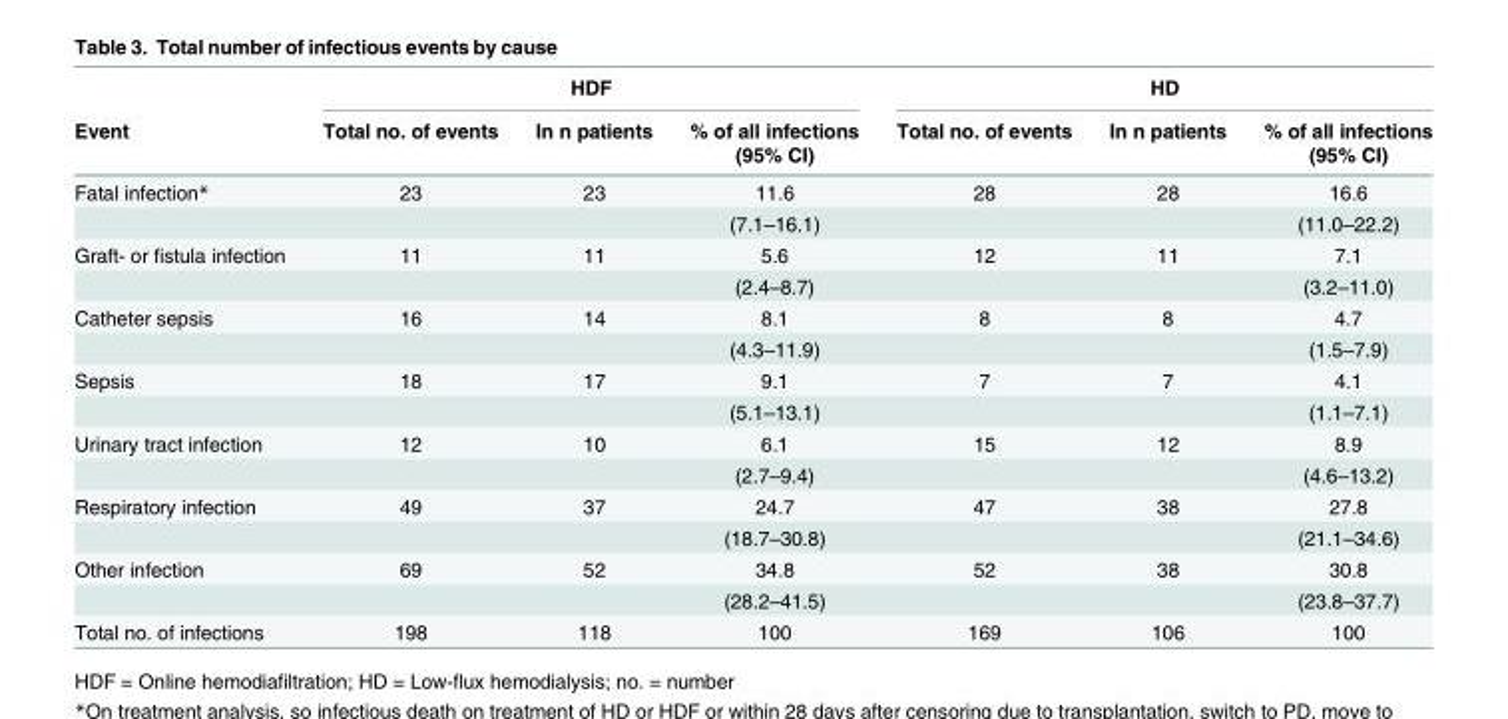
<table><thead><tr><td rowspan="3">Event</td><td colspan="3">HDF</td><td colspan="3">HD</td></tr><tr><td rowspan="2">Total no. of events</td><td rowspan="2">In n patients</td><td rowspan="2">% of all infections (95% CI)</td><td rowspan="2">Total no. of events</td><td rowspan="2">In n patients</td><td rowspan="2">% of all infections (95% CI)</td></tr><tr></tr></thead><tbody><tr><td rowspan="2">Fatal infection*</td><td>23</td><td>23</td><td>11.6</td><td>28</td><td>28</td><td>16.6</td></tr><tr><td></td><td></td><td>(7.1–16.1)</td><td></td><td></td><td>(11.0–22.2)</td></tr><tr><td rowspan="2">Graft- or fistula infection</td><td>11</td><td>11</td><td>5.6</td><td>12</td><td>11</td><td>7.1</td></tr><tr><td></td><td></td><td>(2.4–8.7)</td><td></td><td></td><td>(3.2–11.0)</td></tr><tr><td rowspan="2">Catheter sepsis</td><td>16</td><td>14</td><td>8.1</td><td>8</td><td>8</td><td>4.7</td></tr><tr><td></td><td></td><td>(4.3–11.9)</td><td></td><td></td><td>(1.5–7.9)</td></tr><tr><td rowspan="2">Sepsis</td><td>18</td><td>17</td><td>9.1</td><td>7</td><td>7</td><td>4.1</td></tr><tr><td></td><td></td><td>(5.1–13.1)</td><td></td><td></td><td>(1.1–7.1)</td></tr><tr><td rowspan="2">Urinary tract infection</td><td>12</td><td>10</td><td>6.1</td><td>15</td><td>12</td><td>8.9</td></tr><tr><td></td><td></td><td>(2.7–9.4)</td><td></td><td></td><td>(4.6–13.2)</td></tr><tr><td rowspan="2">Respiratory infection</td><td>49</td><td>37</td><td>24.7</td><td>47</td><td>38</td><td>27.8</td></tr><tr><td></td><td></td><td>(18.7–30.8)</td><td></td><td></td><td>(21.1–34.6)</td></tr><tr><td rowspan="2">Other infection</td><td>69</td><td>52</td><td>34.8</td><td>52</td><td>38</td><td>30.8</td></tr><tr><td></td><td></td><td>(28.2–41.5)</td><td></td><td></td><td>(23.8–37.7)</td></tr><tr><td>Total no. of infections</td><td>198</td><td>118</td><td>100</td><td>169</td><td>106</td><td>100</td></tr></tbody></table>